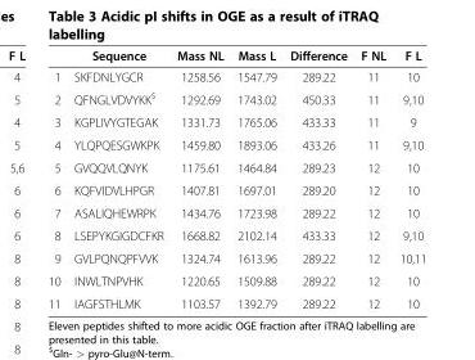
<table><thead><tr><td></td><td>Sequence</td><td>Mass NL</td><td>Mass L</td><td>Difference</td><td>F NL</td><td>F L</td></tr></thead><tbody><tr><td>1</td><td>SKFDNLYGCR</td><td>1258.56</td><td>1547.79</td><td>289.22</td><td>11</td><td>10</td></tr><tr><td>2</td><td>QFNGLVDVYKK<sup>$</sup></td><td>1292.69</td><td>1743.02</td><td>450.33</td><td>11</td><td>9,10</td></tr><tr><td>3</td><td>KGPLIVYGTEGAK</td><td>1331.73</td><td>1765.06</td><td>433.33</td><td>11</td><td>9</td></tr><tr><td>4</td><td>YLQPQESGWKPK</td><td>1459.80</td><td>1893.06</td><td>433.26</td><td>11</td><td>9,10</td></tr><tr><td>5</td><td>GVQQVLQNYK</td><td>1175.61</td><td>1464.84</td><td>289.23</td><td>12</td><td>10</td></tr><tr><td>6</td><td>KQFVIDVLHPGR</td><td>1407.81</td><td>1697.01</td><td>289.20</td><td>12</td><td>10</td></tr><tr><td>7</td><td>ASALIQHEWRPK</td><td>1434.76</td><td>1723.98</td><td>289.22</td><td>12</td><td>10</td></tr><tr><td>8</td><td>LSEPYKGIGDCFKR</td><td>1668.82</td><td>2102.14</td><td>433.33</td><td>12</td><td>9,10</td></tr><tr><td>9</td><td>GVLPQNQPFVVK</td><td>1324.74</td><td>1613.96</td><td>289.22</td><td>12</td><td>10,11</td></tr><tr><td>10</td><td>INWLTNPVHK</td><td>1220.65</td><td>1509.88</td><td>289.22</td><td>12</td><td>10</td></tr><tr><td>11</td><td>IAGFSTHLMK</td><td>1103.57</td><td>1392.79</td><td>289.22</td><td>12</td><td>10</td></tr></tbody></table>